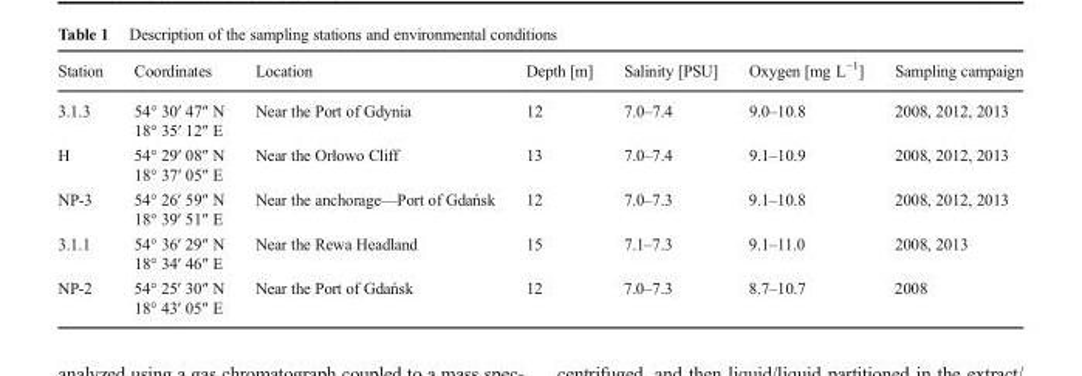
<table><thead><tr><td>Station</td><td>Coordinates</td><td>Location</td><td>Depth [m]</td><td>Salinity [PSU]</td><td>Oxygen [mg L<sup>−1</sup>]</td><td>Sampling campaign</td></tr></thead><tbody><tr><td rowspan="2">3.1.3</td><td>54° 30′ 47″ N</td><td rowspan="2">Near the Port of Gdynia</td><td rowspan="2">12</td><td rowspan="2">7.0–7.4</td><td rowspan="2">9.0–10.8</td><td rowspan="2">2008, 2012, 2013</td></tr><tr><td>18° 35′ 12″ E</td></tr><tr><td rowspan="2">H</td><td>54° 29′ 08″ N</td><td rowspan="2">Near the Orłowo Cliff</td><td rowspan="2">13</td><td rowspan="2">7.0–7.4</td><td rowspan="2">9.1–10.9</td><td rowspan="2">2008, 2012, 2013</td></tr><tr><td>18° 37′ 05″ E</td></tr><tr><td rowspan="2">NP-3</td><td>54° 26′ 59″ N</td><td rowspan="2">Near the anchorage—Port of Gdańsk</td><td rowspan="2">12</td><td rowspan="2">7.0–7.3</td><td rowspan="2">9.1–10.8</td><td rowspan="2">2008, 2012, 2013</td></tr><tr><td>18° 39′ 51″ E</td></tr><tr><td rowspan="2">3.1.1</td><td>54° 36′ 29″ N</td><td rowspan="2">Near the Rewa Headland</td><td rowspan="2">15</td><td rowspan="2">7.1–7.3</td><td rowspan="2">9.1–11.0</td><td rowspan="2">2008, 2013</td></tr><tr><td>18° 34′ 46″ E</td></tr><tr><td rowspan="2">NP-2</td><td>54° 25′ 30″ N</td><td rowspan="2">Near the Port of Gdańsk</td><td rowspan="2">12</td><td rowspan="2">7.0–7.3</td><td rowspan="2">8.7–10.7</td><td rowspan="2">2008</td></tr><tr><td>18° 43′ 05″ E</td></tr></tbody></table>